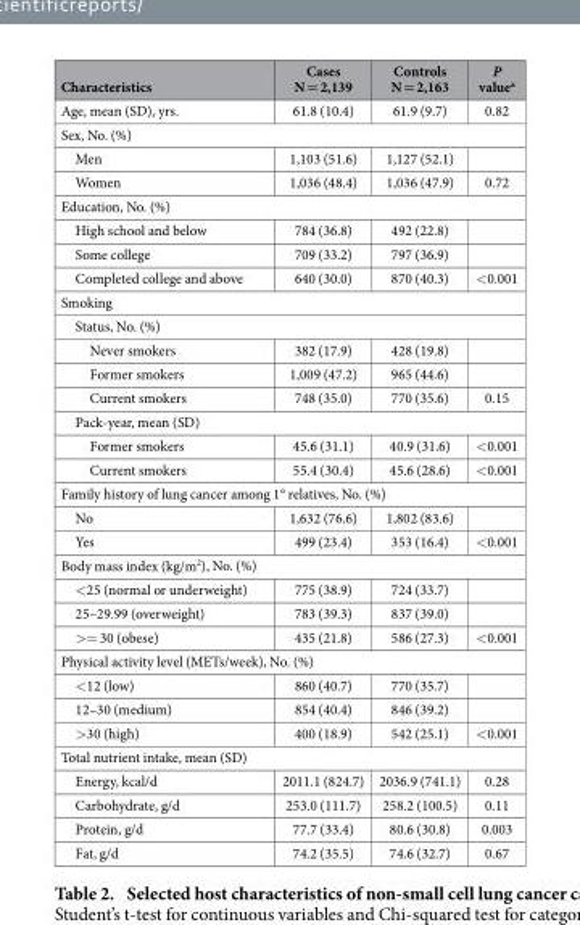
<table><thead><tr><td>Characteristics</td><td>Cases N = 2,139</td><td>Controls N = 2,163</td><td>P value<sup>a</sup></td></tr></thead><tbody><tr><td>Age, mean (SD), yrs.</td><td>61.8 (10.4)</td><td>61.9 (9.7)</td><td>0.82</td></tr><tr><td colspan="4">Sex, No. (%)</td></tr><tr><td>Men</td><td>1,103 (51.6)</td><td>1,127 (52.1)</td><td></td></tr><tr><td>Women</td><td>1,036 (48.4)</td><td>1,036 (47.9)</td><td>0.72</td></tr><tr><td colspan="4">Education, No. (%)</td></tr><tr><td>High school and below</td><td>784 (36.8)</td><td>492 (22.8)</td><td></td></tr><tr><td>Some college</td><td>709 (33.2)</td><td>797 (36.9)</td><td></td></tr><tr><td>Completed college and above</td><td>640 (30.0)</td><td>870 (40.3)</td><td>&lt;0.001</td></tr><tr><td colspan="4">Smoking</td></tr><tr><td colspan="4">Status, No. (%)</td></tr><tr><td>Never smokers</td><td>382 (17.9)</td><td>428 (19.8)</td><td></td></tr><tr><td>Former smokers</td><td>1,009 (47.2)</td><td>965 (44.6)</td><td></td></tr><tr><td>Current smokers</td><td>748 (35.0)</td><td>770 (35.6)</td><td>0.15</td></tr><tr><td colspan="4">Pack-year, mean (SD)</td></tr><tr><td>Former smokers</td><td>45.6 (31.1)</td><td>40.9 (31.6)</td><td>&lt;0.001</td></tr><tr><td>Current smokers</td><td>55.4 (30.4)</td><td>45.6 (28.6)</td><td>&lt;0.001</td></tr><tr><td colspan="4">Family history of lung cancer among 1° relatives, No. (%)</td></tr><tr><td>No</td><td>1,632 (76.6)</td><td>1,802 (83.6)</td><td></td></tr><tr><td>Yes</td><td>499 (23.4)</td><td>353 (16.4)</td><td>&lt;0.001</td></tr><tr><td colspan="4">Body mass index (kg/m<sup>2</sup>), No. (%)</td></tr><tr><td>&lt;25 (normal or underweight)</td><td>775 (38.9)</td><td>724 (33.7)</td><td></td></tr><tr><td>25–29.99 (overweight)</td><td>783 (39.3)</td><td>837 (39.0)</td><td></td></tr><tr><td>&gt;= 30 (obese)</td><td>435 (21.8)</td><td>586 (27.3)</td><td>&lt;0.001</td></tr><tr><td colspan="4">Physical activity level (METs/week), No. (%)</td></tr><tr><td>&lt;12 (low)</td><td>860 (40.7)</td><td>770 (35.7)</td><td></td></tr><tr><td>12–30 (medium)</td><td>854 (40.4)</td><td>846 (39.2)</td><td></td></tr><tr><td>&gt;30 (high)</td><td>400 (18.9)</td><td>542 (25.1)</td><td>&lt;0.001</td></tr><tr><td colspan="4">Total nutrient intake, mean (SD)</td></tr><tr><td>Energy, kcal/d</td><td>2011.1 (824.7)</td><td>2036.9 (741.1)</td><td>0.28</td></tr><tr><td>Carbohydrate, g/d</td><td>253.0 (111.7)</td><td>258.2 (100.5)</td><td>0.11</td></tr><tr><td>Protein, g/d</td><td>77.7 (33.4)</td><td>80.6 (30.8)</td><td>0.003</td></tr><tr><td>Fat, g/d</td><td>74.2 (35.5)</td><td>74.6 (32.7)</td><td>0.67</td></tr></tbody></table>